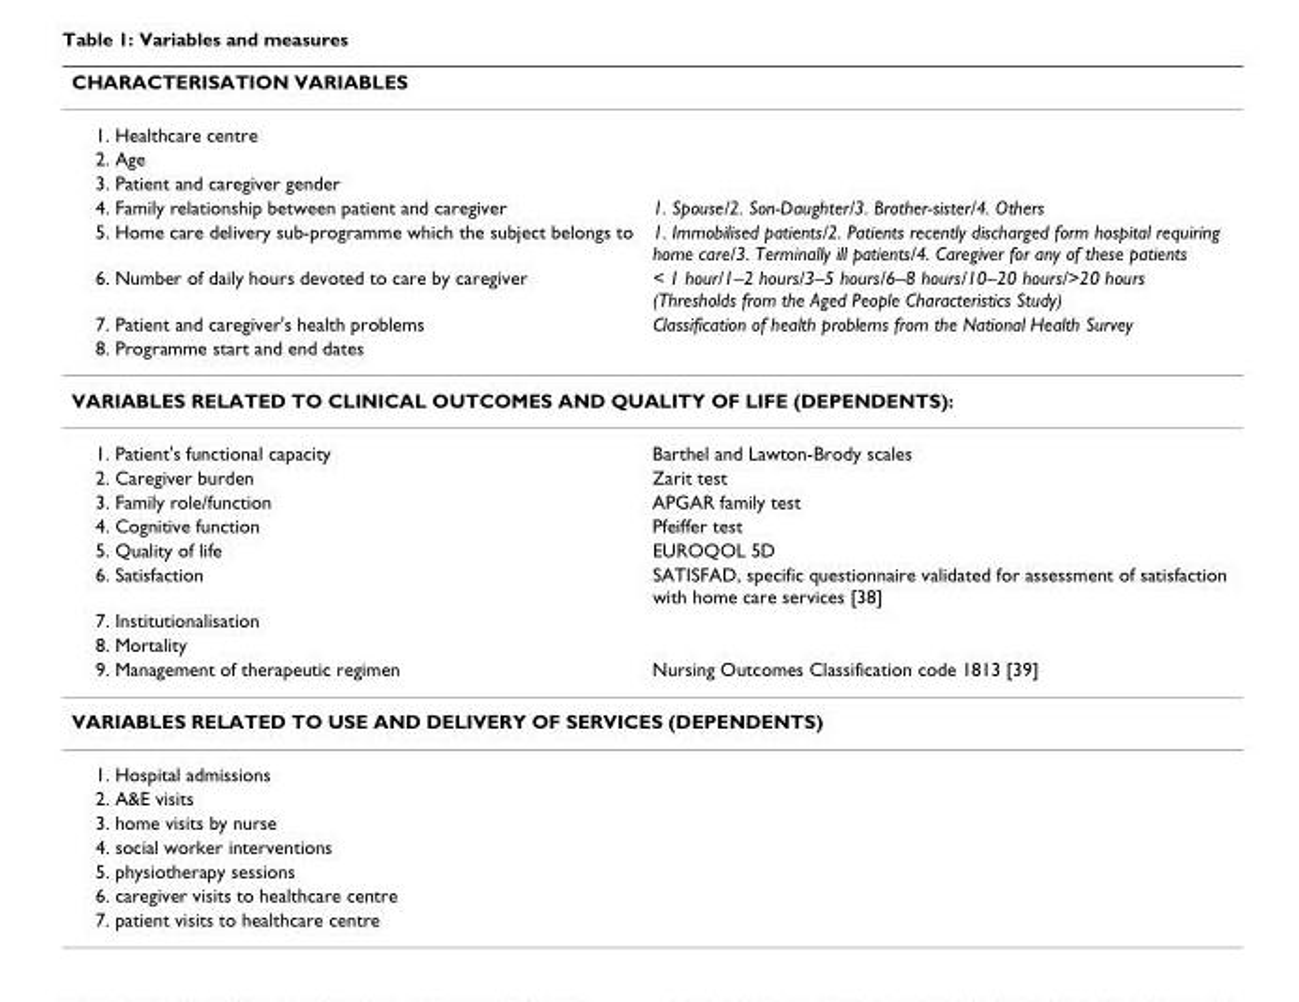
<table><thead><tr><td colspan="2">CHARACTERISATION VARIABLES</td></tr><tr><td>1. Healthcare centre</td><td></td></tr></thead><tbody><tr><td colspan="2">2. Age</td></tr><tr><td colspan="2">3. Patient and caregiver gender</td></tr><tr><td>4. Family relationship between patient and caregiver</td><td>1. Spouse/2. Son-Daughter/3. Brother-sister/4. Others</td></tr><tr><td>5. Home care delivery sub-programme which the subject belongs to</td><td>1. Immobilised patients/2. Patients recently discharged form hospital requiring home care/3. Terminally ill patients/4. Caregiver for any of these patients</td></tr><tr><td>6. Number of daily hours devoted to care by caregiver</td><td>&lt; 1 hour/1–2 hours/3–5 hours/6–8 hours/10–20 hours/&gt;20 hours (Thresholds from the Aged People Characteristics Study)</td></tr><tr><td>7. Patient and caregiver&#x27;s health problems</td><td>Classification of health problems from the National Health Survey</td></tr><tr><td colspan="2">8. Programme start and end dates</td></tr><tr><td colspan="2">VARIABLES RELATED TO CLINICAL OUTCOMES AND QUALITY OF LIFE (DEPENDENTS):</td></tr><tr><td>1. Patient&#x27;s functional capacity</td><td>Barthel and Lawton-Brody scales</td></tr><tr><td>2. Caregiver burden</td><td>Zarit test</td></tr><tr><td>3. Family role/function</td><td>APGAR family test</td></tr><tr><td>4. Cognitive function</td><td>Pfeiffer test</td></tr><tr><td>5. Quality of life</td><td>EUROQOL 5D</td></tr><tr><td>6. Satisfaction</td><td>SATISFAD, specific questionnaire validated for assessment of satisfaction with home care services [38]</td></tr><tr><td colspan="2">7. Institutionalisation</td></tr><tr><td colspan="2">8. Mortality</td></tr><tr><td>9. Management of therapeutic regimen</td><td>Nursing Outcomes Classification code 1813 [39]</td></tr><tr><td colspan="2">VARIABLES RELATED TO USE AND DELIVERY OF SERVICES (DEPENDENTS)</td></tr><tr><td colspan="2">1. Hospital admissions</td></tr><tr><td colspan="2">2. A&amp;E visits</td></tr><tr><td colspan="2">3. home visits by nurse</td></tr><tr><td colspan="2">4. social worker interventions</td></tr><tr><td colspan="2">5. physiotherapy sessions</td></tr><tr><td colspan="2">6. caregiver visits to healthcare centre</td></tr><tr><td>7. patient visits to healthcare centre</td><td></td></tr></tbody></table>